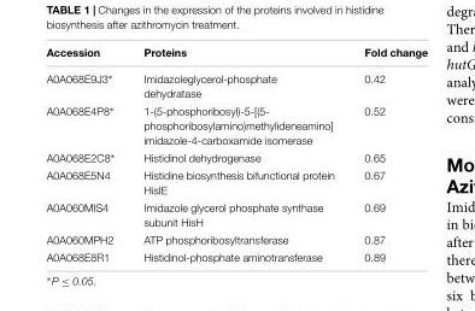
<table><thead><tr><td>Accession</td><td>Proteins</td><td>Fold change</td></tr></thead><tbody><tr><td>A0A068E9J3∗</td><td>Imidazoleglycerol-phosphate dehydratase</td><td>0.42</td></tr><tr><td>A0A068E4P8∗</td><td>1-(5-phosphoribosyl)-5-[(5- phosphoribosylamino)methylideneamino] imidazole-4-carboxamide isomerase</td><td>0.52</td></tr><tr><td>A0A068E2C8∗</td><td>Histidinol dehydrogenase</td><td>0.65</td></tr><tr><td>A0A068E5N4</td><td>Histidine biosynthesis bifunctional protein HisIE</td><td>0.67</td></tr><tr><td>A0A060MIS4</td><td>Imidazole glycerol phosphate synthase subunit HisH</td><td>0.69</td></tr><tr><td>A0A060MPH2</td><td>ATP phosphoribosyltransferase</td><td>0.87</td></tr><tr><td>A0A068E8R1</td><td>Histidinol-phosphate aminotransferase</td><td>0.89</td></tr></tbody></table>